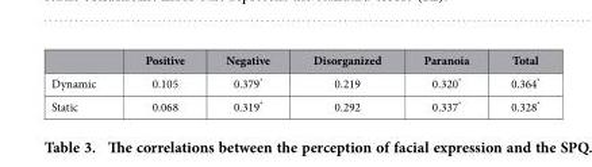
<table><thead><tr><td></td><td>Positive</td><td>Negative</td><td>Disorganized</td><td>Paranoia</td><td>Total</td></tr></thead><tbody><tr><td>Dynamic</td><td>0.105</td><td>0.379*</td><td>0.219</td><td>0.320*</td><td>0.364*</td></tr><tr><td>Static</td><td>0.068</td><td>0.319*</td><td>0.292</td><td>0.337*</td><td>0.328*</td></tr></tbody></table>